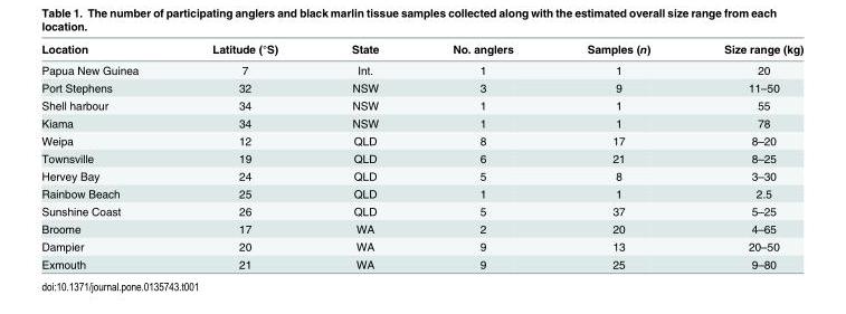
<table><thead><tr><td>Location</td><td>Latitude (°S)</td><td>State</td><td>No. anglers</td><td>Samples (n)</td><td>Size range (kg)</td></tr></thead><tbody><tr><td>Papua New Guinea</td><td>7</td><td>Int.</td><td>1</td><td>1</td><td>20</td></tr><tr><td>Port Stephens</td><td>32</td><td>NSW</td><td>3</td><td>9</td><td>11–50</td></tr><tr><td>Shell harbour</td><td>34</td><td>NSW</td><td>1</td><td>1</td><td>55</td></tr><tr><td>Kiama</td><td>34</td><td>NSW</td><td>1</td><td>1</td><td>78</td></tr><tr><td>Weipa</td><td>12</td><td>QLD</td><td>8</td><td>17</td><td>8–20</td></tr><tr><td>Townsville</td><td>19</td><td>QLD</td><td>6</td><td>21</td><td>8–25</td></tr><tr><td>Hervey Bay</td><td>24</td><td>QLD</td><td>5</td><td>8</td><td>3–30</td></tr><tr><td>Rainbow Beach</td><td>25</td><td>QLD</td><td>1</td><td>1</td><td>2.5</td></tr><tr><td>Sunshine Coast</td><td>26</td><td>QLD</td><td>5</td><td>37</td><td>5–25</td></tr><tr><td>Broome</td><td>17</td><td>WA</td><td>2</td><td>20</td><td>4–65</td></tr><tr><td>Dampier</td><td>20</td><td>WA</td><td>9</td><td>13</td><td>20–50</td></tr><tr><td>Exmouth</td><td>21</td><td>WA</td><td>9</td><td>25</td><td>9–80</td></tr></tbody></table>